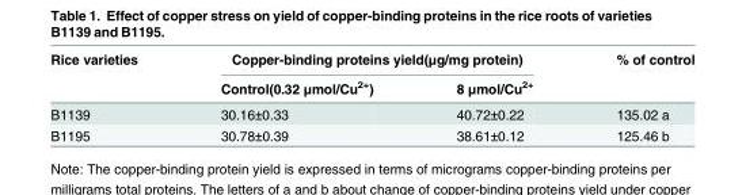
<table><thead><tr><td rowspan="2">Rice varieties</td><td colspan="2">Copper-binding proteins yield(μg/mg protein)</td><td rowspan="2">% of control</td></tr><tr><td>Control(0.32 μmol/Cu<sup>2+</sup>)</td><td>8 μmol/Cu<sup>2+</sup></td></tr></thead><tbody><tr><td>B1139</td><td>30.16±0.33</td><td>40.72±0.22</td><td>135.02 a</td></tr><tr><td>B1195</td><td>30.78±0.39</td><td>38.61±0.12</td><td>125.46 b</td></tr></tbody></table>